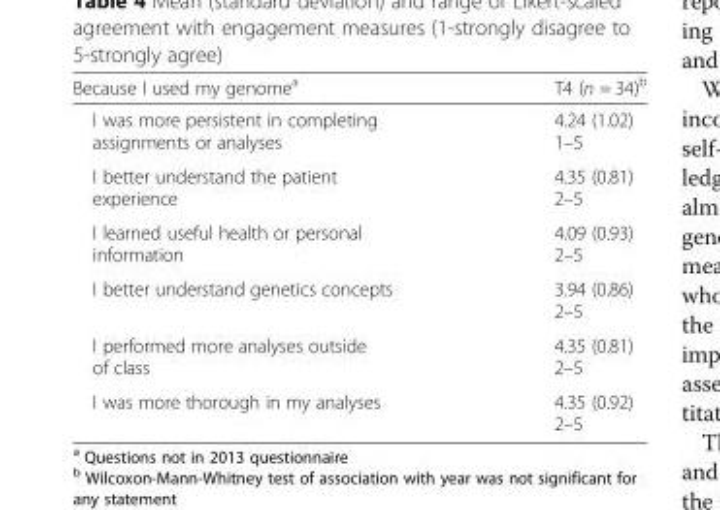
<table><thead><tr><td>Because I used my genome<sup>a</sup></td><td>T4 (n = 34)<sup>b</sup></td></tr></thead><tbody><tr><td>I was more persistent in completing assignments or analyses</td><td>4.24 (1.02) 1–5</td></tr><tr><td>I better understand the patient experience</td><td>4.35 (0.81) 2–5</td></tr><tr><td>I learned useful health or personal information</td><td>4.09 (0.93) 2–5</td></tr><tr><td>I better understand genetics concepts</td><td>3.94 (0.86) 2–5</td></tr><tr><td>I performed more analyses outside of class</td><td>4.35 (0.81) 2–5</td></tr><tr><td>I was more thorough in my analyses</td><td>4.35 (0.92) 2–5</td></tr></tbody></table>